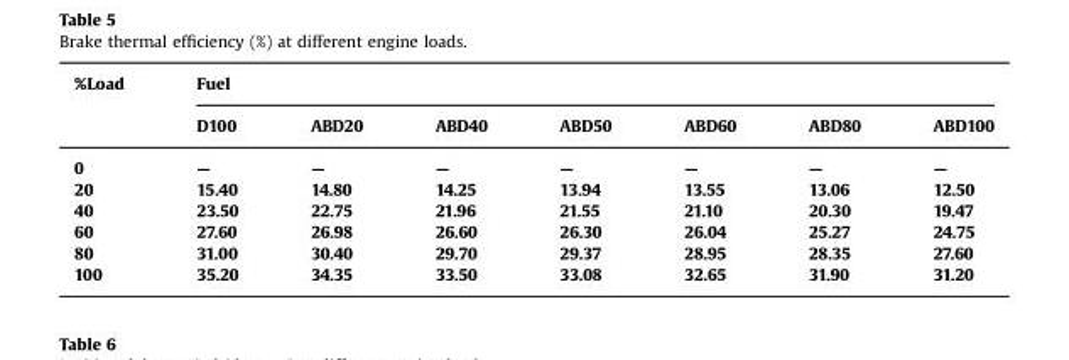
<table><thead><tr><td rowspan="2">%Load</td><td colspan="7">Fuel</td></tr><tr><td>D100</td><td>ABD20</td><td>ABD40</td><td>ABD50</td><td>ABD60</td><td>ABD80</td><td>ABD100</td></tr></thead><tbody><tr><td>0</td><td>—</td><td>—</td><td>—</td><td>—</td><td>—</td><td>—</td><td>—</td></tr><tr><td>20</td><td>15.40</td><td>14.80</td><td>14.25</td><td>13.94</td><td>13.55</td><td>13.06</td><td>12.50</td></tr><tr><td>40</td><td>23.50</td><td>22.75</td><td>21.96</td><td>21.55</td><td>21.10</td><td>20.30</td><td>19.47</td></tr><tr><td>60</td><td>27.60</td><td>26.98</td><td>26.60</td><td>26.30</td><td>26.04</td><td>25.27</td><td>24.75</td></tr><tr><td>80</td><td>31.00</td><td>30.40</td><td>29.70</td><td>29.37</td><td>28.95</td><td>28.35</td><td>27.60</td></tr><tr><td>100</td><td>35.20</td><td>34.35</td><td>33.50</td><td>33.08</td><td>32.65</td><td>31.90</td><td>31.20</td></tr></tbody></table>